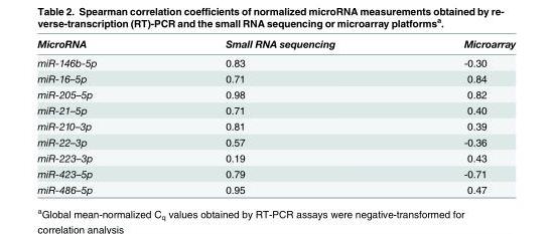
<table><thead><tr><td>MicroRNA</td><td>Small RNA sequencing</td><td>Microarray</td></tr></thead><tbody><tr><td>miR-146b-5p</td><td>0.83</td><td>-0.30</td></tr><tr><td>miR-16–5p</td><td>0.71</td><td>0.84</td></tr><tr><td>miR-205–5p</td><td>0.98</td><td>0.82</td></tr><tr><td>miR-21–5p</td><td>0.71</td><td>0.40</td></tr><tr><td>miR-210–3p</td><td>0.81</td><td>0.39</td></tr><tr><td>miR-22–3p</td><td>0.57</td><td>-0.36</td></tr><tr><td>miR-223–3p</td><td>0.19</td><td>0.43</td></tr><tr><td>miR-423–5p</td><td>0.79</td><td>-0.71</td></tr><tr><td>miR-486–5p</td><td>0.95</td><td>0.47</td></tr></tbody></table>